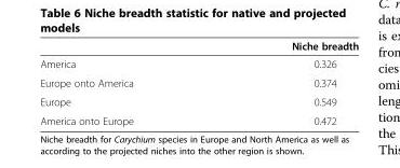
<table><thead><tr><td></td><td>Niche breadth</td></tr></thead><tbody><tr><td>America</td><td>0.326</td></tr><tr><td>Europe onto America</td><td>0.374</td></tr><tr><td>Europe</td><td>0.549</td></tr><tr><td>America onto Europe</td><td>0.472</td></tr></tbody></table>